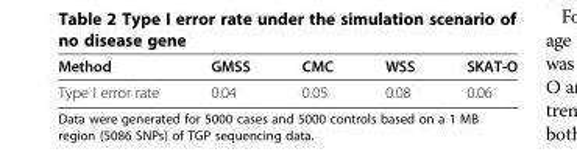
<table><thead><tr><td>Method</td><td>GMSS</td><td>CMC</td><td>WSS</td><td>SKAT-O</td></tr></thead><tbody><tr><td>Type I error rate</td><td>0.04</td><td>0.05</td><td>0.08</td><td>0.06</td></tr></tbody></table>